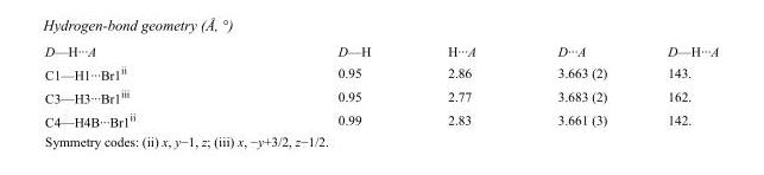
<table><tbody><tr><td>D—H···A</td><td>D—H</td><td>H···A</td><td>D···A</td><td>D—H···A</td></tr><tr><td>C1—H1···Br1<sup>ii</sup></td><td>0.95</td><td>2.86</td><td>3.663 (2)</td><td>143.</td></tr><tr><td>C3—H3···Br1<sup>iii</sup></td><td>0.95</td><td>2.77</td><td>3.683 (2)</td><td>162.</td></tr><tr><td>C4—H4B···Br1<sup>ii</sup></td><td>0.99</td><td>2.83</td><td>3.661 (3)</td><td>142.</td></tr></tbody></table>